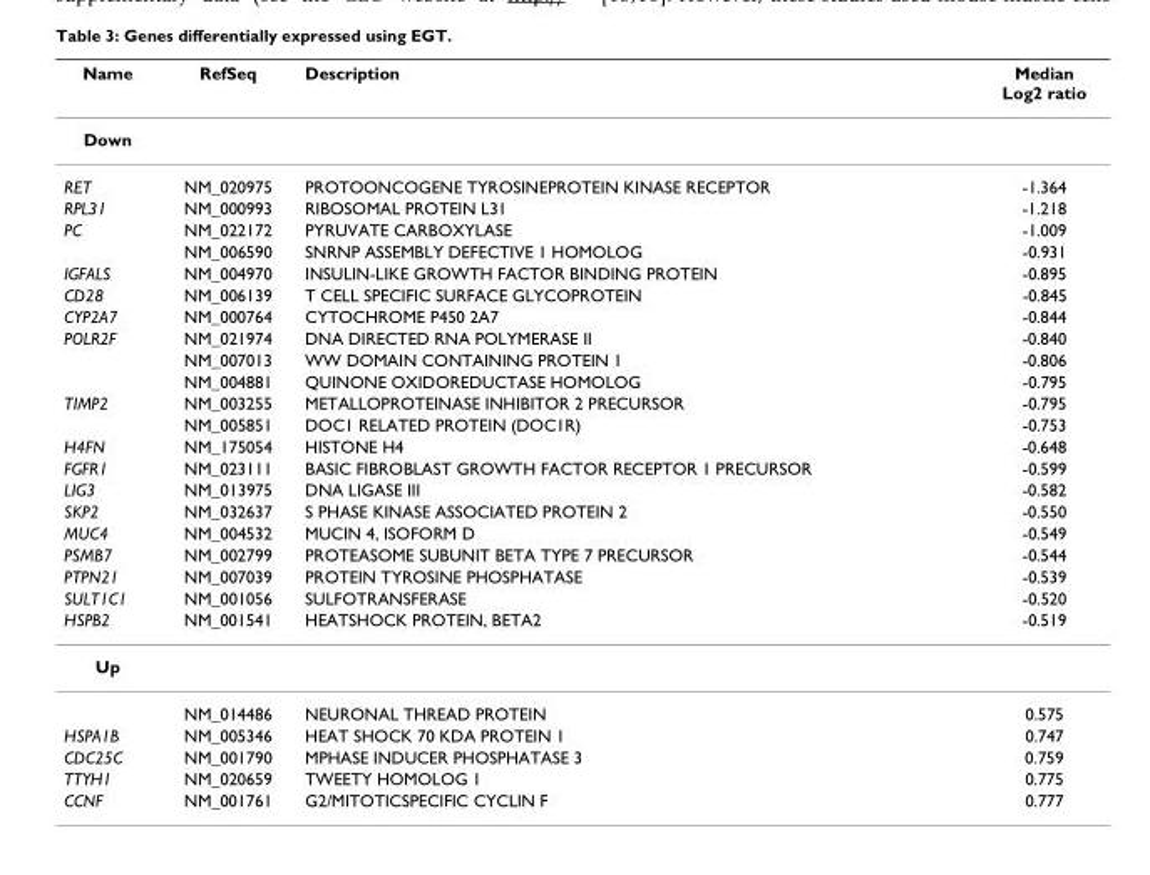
<table><thead><tr><td>Name</td><td>RefSeq</td><td>Description</td><td>Median Log2 ratio</td></tr></thead><tbody><tr><td colspan="4">Down</td></tr><tr><td>RET</td><td>NM_020975</td><td>PROTOONCOGENE TYROSINEPROTEIN KINASE RECEPTOR</td><td>-1.364</td></tr><tr><td>RPL31</td><td>NM_000993</td><td>RIBOSOMAL PROTEIN L31</td><td>-1.218</td></tr><tr><td rowspan="2">PC</td><td>NM_022172</td><td>PYRUVATE CARBOXYLASE</td><td>-1.009</td></tr><tr><td>NM_006590</td><td>SNRNP ASSEMBLY DEFECTIVE 1 HOMOLOG</td><td>-0.931</td></tr><tr><td>IGFALS</td><td>NM_004970</td><td>INSULIN-LIKE GROWTH FACTOR BINDING PROTEIN</td><td>-0.895</td></tr><tr><td>CD28</td><td>NM_006139</td><td>T CELL SPECIFIC SURFACE GLYCOPROTEIN</td><td>-0.845</td></tr><tr><td>CYP2A7</td><td>NM_000764</td><td>CYTOCHROME P450 2A7</td><td>-0.844</td></tr><tr><td rowspan="3">POLR2F</td><td>NM_021974</td><td>DNA DIRECTED RNA POLYMERASE II</td><td>-0.840</td></tr><tr><td>NM_007013</td><td>WW DOMAIN CONTAINING PROTEIN 1</td><td>-0.806</td></tr><tr><td>NM_004881</td><td>QUINONE OXIDOREDUCTASE HOMOLOG</td><td>-0.795</td></tr><tr><td rowspan="2">TIMP2</td><td>NM_003255</td><td>METALLOPROTEINASE INHIBITOR 2 PRECURSOR</td><td>-0.795</td></tr><tr><td>NM_005851</td><td>DOC1 RELATED PROTEIN (DOC1R)</td><td>-0.753</td></tr><tr><td>H4FN</td><td>NM_175054</td><td>HISTONE H4</td><td>-0.648</td></tr><tr><td>FGFR1</td><td>NM_023111</td><td>BASIC FIBROBLAST GROWTH FACTOR RECEPTOR 1 PRECURSOR</td><td>-0.599</td></tr><tr><td>LIG3</td><td>NM_013975</td><td>DNA LIGASE III</td><td>-0.582</td></tr><tr><td>SKP2</td><td>NM_032637</td><td>S PHASE KINASE ASSOCIATED PROTEIN 2</td><td>-0.550</td></tr><tr><td>MUC4</td><td>NM_004532</td><td>MUCIN 4, ISOFORM D</td><td>-0.549</td></tr><tr><td>PSMB7</td><td>NM_002799</td><td>PROTEASOME SUBUNIT BETA TYPE 7 PRECURSOR</td><td>-0.544</td></tr><tr><td>PTPN21</td><td>NM_007039</td><td>PROTEIN TYROSINE PHOSPHATASE</td><td>-0.539</td></tr><tr><td>SULT1C1</td><td>NM_001056</td><td>SULFOTRANSFERASE</td><td>-0.520</td></tr><tr><td>HSPB2</td><td>NM_001541</td><td>HEATSHOCK PROTEIN, BETA2</td><td>-0.519</td></tr><tr><td colspan="4">Up</td></tr><tr><td></td><td>NM_014486</td><td>NEURONAL THREAD PROTEIN</td><td>0.575</td></tr><tr><td>HSPA1B</td><td>NM_005346</td><td>HEAT SHOCK 70 KDA PROTEIN 1</td><td>0.747</td></tr><tr><td>CDC25C</td><td>NM_001790</td><td>MPHASE INDUCER PHOSPHATASE 3</td><td>0.759</td></tr><tr><td>TTYH1</td><td>NM_020659</td><td>TWEETY HOMOLOG 1</td><td>0.775</td></tr><tr><td>CCNF</td><td>NM_001761</td><td>G2/MITOTICSPECIFIC CYCLIN F</td><td>0.777</td></tr></tbody></table>